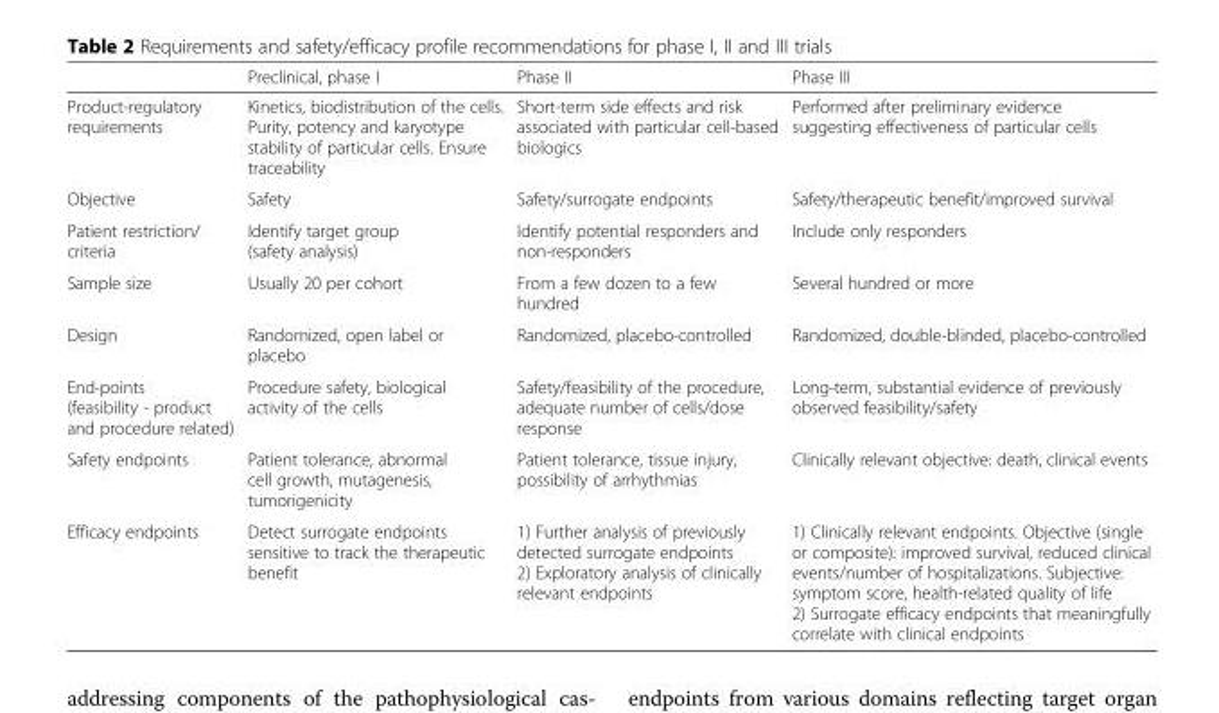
<table><thead><tr><td></td><td>Preclinical, phase I</td><td>Phase II</td><td>Phase III</td></tr></thead><tbody><tr><td>Product-regulatory requirements</td><td>Kinetics, biodistribution of the cells. Purity, potency and karyotype stability of particular cells. Ensure traceability</td><td>Short-term side effects and risk associated with particular cell-based biologics</td><td>Performed after preliminary evidence suggesting effectiveness of particular cells</td></tr><tr><td>Objective</td><td>Safety</td><td>Safety/surrogate endpoints</td><td>Safety/therapeutic benefit/improved survival</td></tr><tr><td>Patient restriction/ criteria</td><td>Identify target group (safety analysis)</td><td>Identify potential responders and non-responders</td><td>Include only responders</td></tr><tr><td>Sample size</td><td>Usually 20 per cohort</td><td>From a few dozen to a few hundred</td><td>Several hundred or more</td></tr><tr><td>Design</td><td>Randomized, open label or placebo</td><td>Randomized, placebo-controlled</td><td>Randomized, double-blinded, placebo-controlled</td></tr><tr><td>End-points (feasibility - product and procedure related)</td><td>Procedure safety, biological activity of the cells</td><td>Safety/feasibility of the procedure, adequate number of cells/dose response</td><td>Long-term, substantial evidence of previously observed feasibility/safety</td></tr><tr><td>Safety endpoints</td><td>Patient tolerance, abnormal cell growth, mutagenesis, tumorigenicity</td><td>Patient tolerance, tissue injury, possibility of arrhythmias</td><td>Clinically relevant objective: death, clinical events</td></tr><tr><td>Efficacy endpoints</td><td>Detect surrogate endpoints sensitive to track the therapeutic benefit</td><td>1) Further analysis of previously detected surrogate endpoints 2) Exploratory analysis of clinically relevant endpoints</td><td>1) Clinically relevant endpoints. Objective (single or composite): improved survival, reduced clinical events/number of hospitalizations. Subjective: symptom score, health-related quality of life 2) Surrogate efficacy endpoints that meaningfully correlate with clinical endpoints</td></tr></tbody></table>